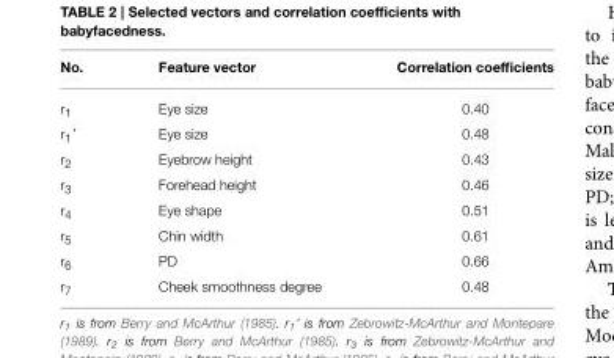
<table><thead><tr><td>No.</td><td>Feature vector</td><td>Correlation coefficients</td></tr></thead><tbody><tr><td>r<sub>1</sub></td><td>Eye size</td><td>0.40</td></tr><tr><td>r<sub>1</sub>’</td><td>Eye size</td><td>0.48</td></tr><tr><td>r<sub>2</sub></td><td>Eyebrow height</td><td>0.43</td></tr><tr><td>r<sub>3</sub></td><td>Forehead height</td><td>0.46</td></tr><tr><td>r<sub>4</sub></td><td>Eye shape</td><td>0.51</td></tr><tr><td>r<sub>5</sub></td><td>Chin width</td><td>0.61</td></tr><tr><td>r<sub>6</sub></td><td>PD</td><td>0.66</td></tr><tr><td>r<sub>7</sub></td><td>Cheek smoothness degree</td><td>0.48</td></tr></tbody></table>